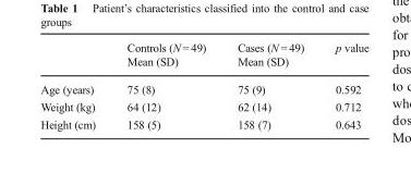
<table><thead><tr><td rowspan="2"></td><td rowspan="2">Controls (N = 49) Mean (SD)</td><td rowspan="2">Cases (N = 49) Mean (SD)</td><td rowspan="2">p value</td></tr><tr></tr></thead><tbody><tr><td>Age (years)</td><td>75 (8)</td><td>75 (9)</td><td>0.592</td></tr><tr><td>Weight (kg)</td><td>64 (12)</td><td>62 (14)</td><td>0.712</td></tr><tr><td>Height (cm)</td><td>158 (5)</td><td>158 (7)</td><td>0.643</td></tr></tbody></table>